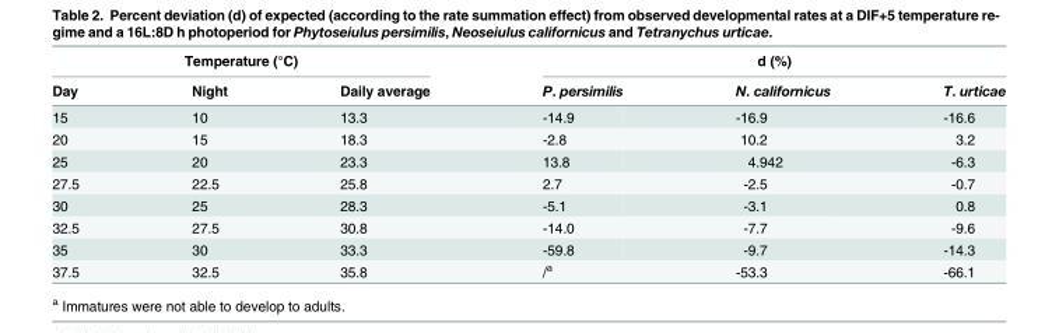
<table><thead><tr><td colspan="3">Temperature (°C)</td><td colspan="3">d (%)</td></tr><tr><td>Day</td><td>Night</td><td>Daily average</td><td>P. persimilis</td><td>N. californicus</td><td>T. urticae</td></tr></thead><tbody><tr><td>15</td><td>10</td><td>13.3</td><td>-14.9</td><td>-16.9</td><td>-16.6</td></tr><tr><td>20</td><td>15</td><td>18.3</td><td>-2.8</td><td>10.2</td><td>3.2</td></tr><tr><td>25</td><td>20</td><td>23.3</td><td>13.8</td><td>4.942</td><td>-6.3</td></tr><tr><td>27.5</td><td>22.5</td><td>25.8</td><td>2.7</td><td>-2.5</td><td>-0.7</td></tr><tr><td>30</td><td>25</td><td>28.3</td><td>-5.1</td><td>-3.1</td><td>0.8</td></tr><tr><td>32.5</td><td>27.5</td><td>30.8</td><td>-14.0</td><td>-7.7</td><td>-9.6</td></tr><tr><td>35</td><td>30</td><td>33.3</td><td>-59.8</td><td>-9.7</td><td>-14.3</td></tr><tr><td>37.5</td><td>32.5</td><td>35.8</td><td>/<sup>a</sup></td><td>-53.3</td><td>-66.1</td></tr></tbody></table>